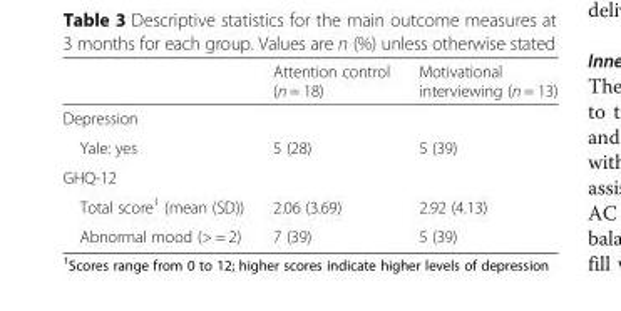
<table><thead><tr><td></td><td>Attention control (n = 18)</td><td>Motivational interviewing (n = 13)</td></tr></thead><tbody><tr><td colspan="3">Depression</td></tr><tr><td>Yale: yes</td><td>5 (28)</td><td>5 (39)</td></tr><tr><td colspan="3">GHQ-12</td></tr><tr><td>Total score<sup>1</sup> (mean (SD))</td><td>2.06 (3.69)</td><td>2.92 (4.13)</td></tr><tr><td>Abnormal mood (&gt; = 2)</td><td>7 (39)</td><td>5 (39)</td></tr></tbody></table>